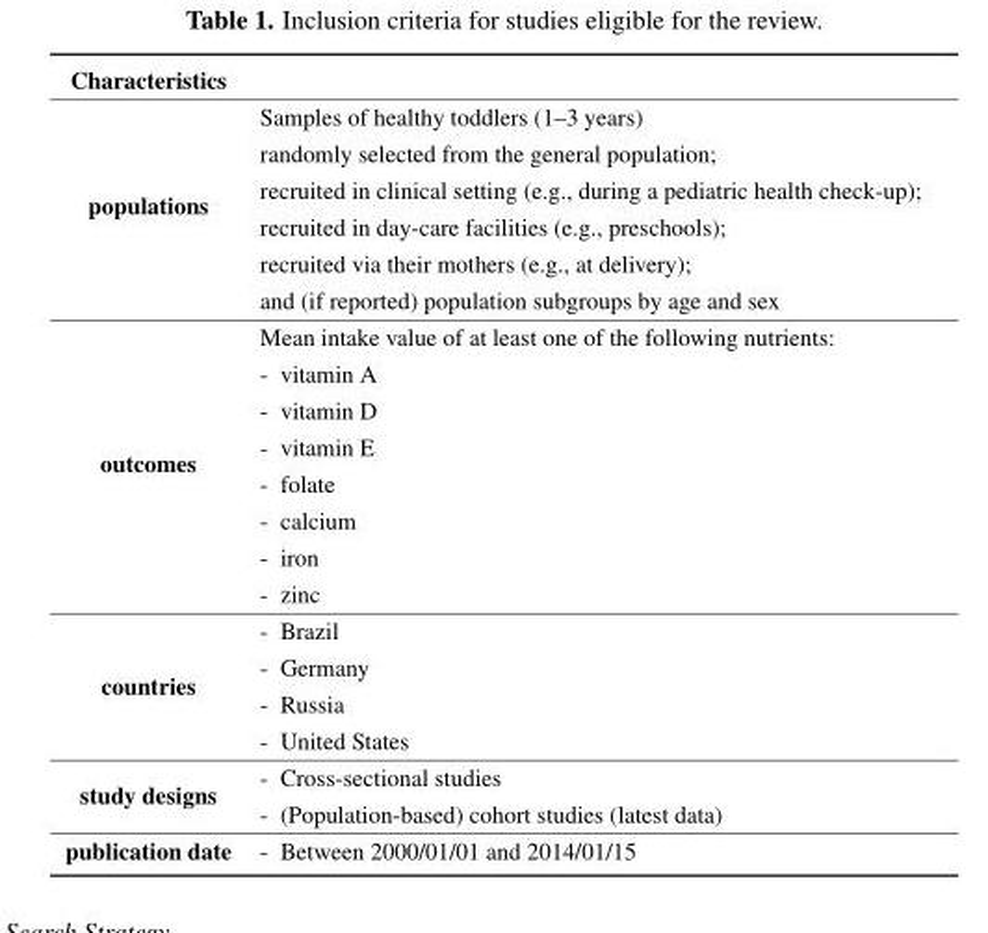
<table><tbody><tr><td colspan="2">Characteristics</td></tr><tr><td rowspan="6">populations</td><td>Samples of healthy toddlers (1–3 years)</td></tr><tr><td>randomly selected from the general population;</td></tr><tr><td>recruited in clinical setting (e.g., during a pediatric health check-up);</td></tr><tr><td>recruited in day-care facilities (e.g., preschools);</td></tr><tr><td>recruited via their mothers (e.g., at delivery);</td></tr><tr><td>and (if reported) population subgroups by age and sex</td></tr><tr><td rowspan="8">outcomes</td><td>Mean intake value of at least one of the following nutrients:</td></tr><tr><td>- vitamin A</td></tr><tr><td>- vitamin D</td></tr><tr><td>- vitamin E</td></tr><tr><td>- folate</td></tr><tr><td>- calcium</td></tr><tr><td>- iron</td></tr><tr><td>- zinc</td></tr><tr><td rowspan="4">countries</td><td>- Brazil</td></tr><tr><td>- Germany</td></tr><tr><td>- Russia</td></tr><tr><td>- United States</td></tr><tr><td rowspan="2">study designs</td><td>- Cross-sectional studies</td></tr><tr><td>- (Population-based) cohort studies (latest data)</td></tr><tr><td>publication date</td><td>- Between 2000/01/01 and 2014/01/15</td></tr></tbody></table>